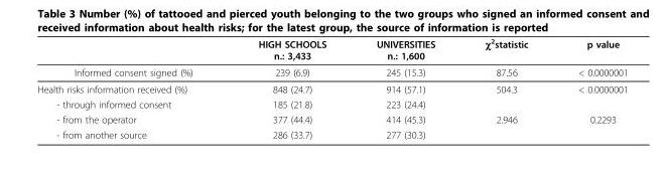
<table><thead><tr><td></td><td>HIGH SCHOOLS n.: 3,433</td><td>UNIVERSITIES n.: 1,600</td><td>χ<sup>2</sup>statistic</td><td>p value</td></tr></thead><tbody><tr><td>Informed consent signed (%)</td><td>239 (6.9)</td><td>245 (15.3)</td><td>87.56</td><td>&lt; 0.0000001</td></tr><tr><td>Health risks information received (%)</td><td>848 (24.7)</td><td>914 (57.1)</td><td>504.3</td><td>&lt; 0.0000001</td></tr><tr><td>- through informed consent</td><td>185 (21.8)</td><td>223 (24.4)</td><td></td><td></td></tr><tr><td>- from the operator</td><td>377 (44.4)</td><td>414 (45.3)</td><td>2.946</td><td>0.2293</td></tr><tr><td>- from another source</td><td>286 (33.7)</td><td>277 (30.3)</td><td></td><td></td></tr></tbody></table>